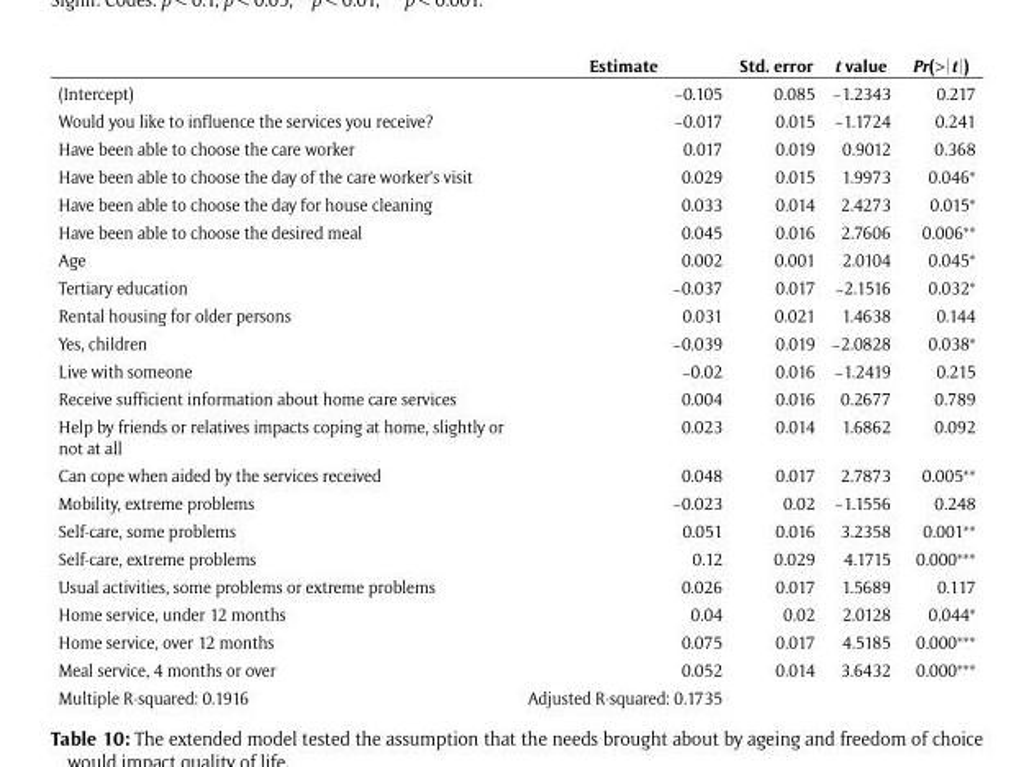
<table><thead><tr><td></td><td>Estimate</td><td>Std. error</td><td>t value</td><td>Pr(&gt;|t|)</td></tr></thead><tbody><tr><td>(Intercept)</td><td>−0.105</td><td>0.085</td><td>−1.2343</td><td>0.217</td></tr><tr><td>Would you like to influence the services you receive?</td><td>−0.017</td><td>0.015</td><td>−1.1724</td><td>0.241</td></tr><tr><td>Have been able to choose the care worker</td><td>0.017</td><td>0.019</td><td>0.9012</td><td>0.368</td></tr><tr><td>Have been able to choose the day of the care worker’s visit</td><td>0.029</td><td>0.015</td><td>1.9973</td><td>0.046*</td></tr><tr><td>Have been able to choose the day for house cleaning</td><td>0.033</td><td>0.014</td><td>2.4273</td><td>0.015*</td></tr><tr><td>Have been able to choose the desired meal</td><td>0.045</td><td>0.016</td><td>2.7606</td><td>0.006**</td></tr><tr><td>Age</td><td>0.002</td><td>0.001</td><td>2.0104</td><td>0.045*</td></tr><tr><td>Tertiary education</td><td>−0.037</td><td>0.017</td><td>−2.1516</td><td>0.032*</td></tr><tr><td>Rental housing for older persons</td><td>0.031</td><td>0.021</td><td>1.4638</td><td>0.144</td></tr><tr><td>Yes, children</td><td>−0.039</td><td>0.019</td><td>−2.0828</td><td>0.038*</td></tr><tr><td>Live with someone</td><td>−0.02</td><td>0.016</td><td>−1.2419</td><td>0.215</td></tr><tr><td>Receive sufficient information about home care services</td><td>0.004</td><td>0.016</td><td>0.2677</td><td>0.789</td></tr><tr><td>Help by friends or relatives impacts coping at home, slightly or not at all</td><td>0.023</td><td>0.014</td><td>1.6862</td><td>0.092</td></tr><tr><td>Can cope when aided by the services received</td><td>0.048</td><td>0.017</td><td>2.7873</td><td>0.005**</td></tr><tr><td>Mobility, extreme problems</td><td>−0.023</td><td>0.02</td><td>−1.1556</td><td>0.248</td></tr><tr><td>Self-care, some problems</td><td>0.051</td><td>0.016</td><td>3.2358</td><td>0.001**</td></tr><tr><td>Self-care, extreme problems</td><td>0.12</td><td>0.029</td><td>4.1715</td><td>0.000***</td></tr><tr><td>Usual activities, some problems or extreme problems</td><td>0.026</td><td>0.017</td><td>1.5689</td><td>0.117</td></tr><tr><td>Home service, under 12 months</td><td>0.04</td><td>0.02</td><td>2.0128</td><td>0.044*</td></tr><tr><td>Home service, over 12 months</td><td>0.075</td><td>0.017</td><td>4.5185</td><td>0.000***</td></tr><tr><td>Meal service, 4 months or over</td><td>0.052</td><td>0.014</td><td>3.6432</td><td>0.000***</td></tr><tr><td>Multiple R-squared: 0.1916</td><td>Adjusted R-squared: 0.1735</td><td></td><td></td><td></td></tr></tbody></table>